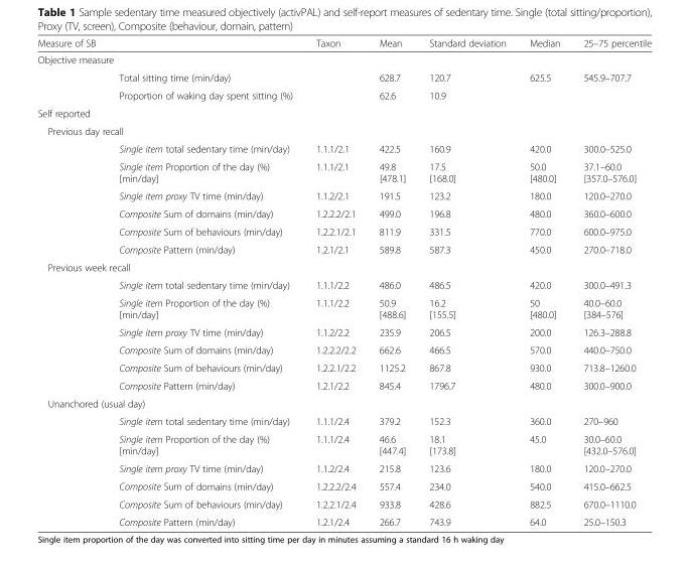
<table><thead><tr><td>Measure of SB</td><td></td><td>Taxon</td><td>Mean</td><td>Standard deviation</td><td>Median</td><td>25–75 percentile</td></tr></thead><tbody><tr><td colspan="7">Objective measure</td></tr><tr><td></td><td>Total sitting time (min/day)</td><td></td><td>628.7</td><td>120.7</td><td>625.5</td><td>545.9–707.7</td></tr><tr><td></td><td>Proportion of waking day spent sitting (%)</td><td></td><td>62.6</td><td>10.9</td><td></td><td></td></tr><tr><td colspan="7">Self reported</td></tr><tr><td colspan="7">Previous day recall</td></tr><tr><td></td><td>Single item total sedentary time (min/day)</td><td>1.1.1/2.1</td><td>422.5</td><td>160.9</td><td>420.0</td><td>300.0–525.0</td></tr><tr><td></td><td>Single item Proportion of the day (%) [min/day]</td><td>1.1.1/2.1</td><td>49.8 [478.1]</td><td>17.5 [168.0]</td><td>50.0 [480.0]</td><td>37.1–60.0 [357.0–576.0]</td></tr><tr><td></td><td>Single item proxy TV time (min/day)</td><td>1.1.2/2.1</td><td>191.5</td><td>123.2</td><td>180.0</td><td>120.0–270.0</td></tr><tr><td></td><td>Composite Sum of domains (min/day)</td><td>1.2.2.2/2.1</td><td>499.0</td><td>196.8</td><td>480.0</td><td>360.0–600.0</td></tr><tr><td></td><td>Composite Sum of behaviours (min/day)</td><td>1.2.2.1/2.1</td><td>811.9</td><td>331.5</td><td>770.0</td><td>600.0–975.0</td></tr><tr><td></td><td>Composite Pattern (min/day)</td><td>1.2.1/2.1</td><td>589.8</td><td>587.3</td><td>450.0</td><td>270.0–718.0</td></tr><tr><td colspan="7">Previous week recall</td></tr><tr><td></td><td>Single item total sedentary time (min/day)</td><td>1.1.1/2.2</td><td>486.0</td><td>486.5</td><td>420.0</td><td>300.0–491.3</td></tr><tr><td></td><td>Single item Proportion of the day (%) [min/day]</td><td>1.1.1/2.2</td><td>50.9 [488.6]</td><td>16.2 [155.5]</td><td>50 [480.0]</td><td>40.0–60.0 [384–576]</td></tr><tr><td></td><td>Single item proxy TV time (min/day)</td><td>1.1.2/2.2</td><td>235.9</td><td>206.5</td><td>200.0</td><td>126.3–288.8</td></tr><tr><td></td><td>Composite Sum of domains (min/day)</td><td>1.2.2.2/2.2</td><td>662.6</td><td>466.5</td><td>570.0</td><td>440.0–750.0</td></tr><tr><td></td><td>Composite Sum of behaviours (min/day)</td><td>1.2.2.1/2.2</td><td>1125.2</td><td>867.8</td><td>930.0</td><td>713.8–1260.0</td></tr><tr><td></td><td>Composite Pattern (min/day)</td><td>1.2.1/2.2</td><td>845.4</td><td>1796.7</td><td>480.0</td><td>300.0–900.0</td></tr><tr><td colspan="7">Unanchored (usual day)</td></tr><tr><td></td><td>Single item total sedentary time (min/day)</td><td>1.1.1/2.4</td><td>379.2</td><td>152.3</td><td>360.0</td><td>270–960</td></tr><tr><td></td><td>Single item Proportion of the day (%) [min/day]</td><td>1.1.1/2.4</td><td>46.6 [447.4]</td><td>18.1 [173.8]</td><td>45.0</td><td>30.0–60.0 [432.0–576.0]</td></tr><tr><td></td><td>Single item proxy TV time (min/day)</td><td>1.1.2/2.4</td><td>215.8</td><td>123.6</td><td>180.0</td><td>120.0–270.0</td></tr><tr><td></td><td>Composite Sum of domains (min/day)</td><td>1.2.2.2/2.4</td><td>557.4</td><td>234.0</td><td>540.0</td><td>415.0–662.5</td></tr><tr><td></td><td>Composite Sum of behaviours (min/day)</td><td>1.2.2.1/2.4</td><td>933.8</td><td>428.6</td><td>882.5</td><td>670.0–1110.0</td></tr><tr><td></td><td>Composite Pattern (min/day)</td><td>1.2.1/2.4</td><td>266.7</td><td>743.9</td><td>64.0</td><td>25.0–150.3</td></tr></tbody></table>